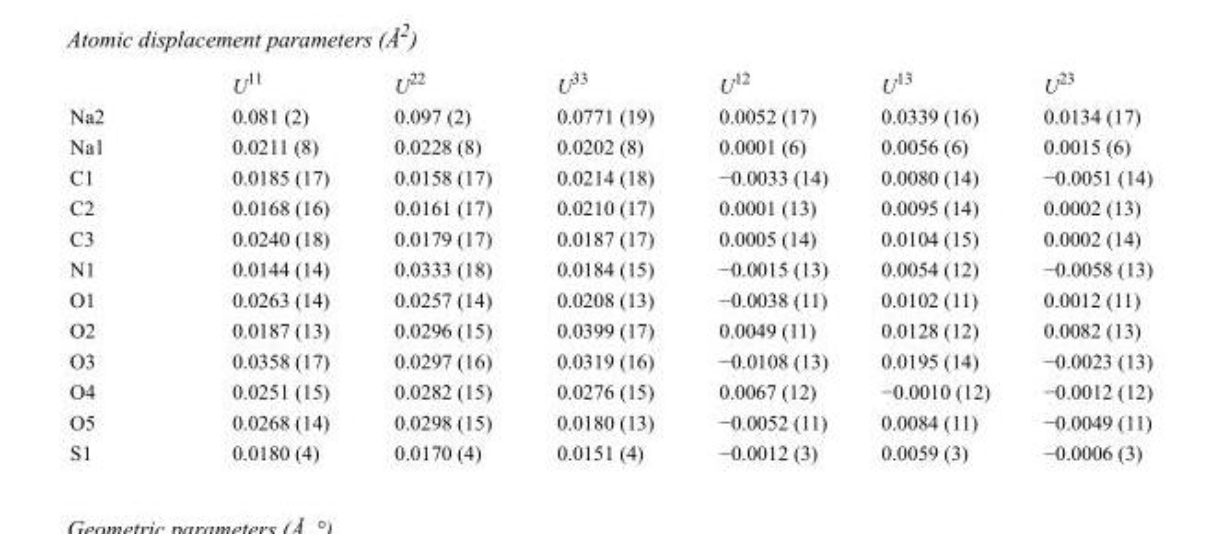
<table><thead><tr><td></td><td>U<sup>11</sup></td><td>U<sup>22</sup></td><td>U<sup>33</sup></td><td>U<sup>12</sup></td><td>U<sup>13</sup></td><td>U<sup>23</sup></td></tr></thead><tbody><tr><td>Na2</td><td>0.081 (2)</td><td>0.097 (2)</td><td>0.0771 (19)</td><td>0.0052 (17)</td><td>0.0339 (16)</td><td>0.0134 (17)</td></tr><tr><td>Na1</td><td>0.0211 (8)</td><td>0.0228 (8)</td><td>0.0202 (8)</td><td>0.0001 (6)</td><td>0.0056 (6)</td><td>0.0015 (6)</td></tr><tr><td>C1</td><td>0.0185 (17)</td><td>0.0158 (17)</td><td>0.0214 (18)</td><td>−0.0033 (14)</td><td>0.0080 (14)</td><td>−0.0051 (14)</td></tr><tr><td>C2</td><td>0.0168 (16)</td><td>0.0161 (17)</td><td>0.0210 (17)</td><td>0.0001 (13)</td><td>0.0095 (14)</td><td>0.0002 (13)</td></tr><tr><td>C3</td><td>0.0240 (18)</td><td>0.0179 (17)</td><td>0.0187 (17)</td><td>0.0005 (14)</td><td>0.0104 (15)</td><td>0.0002 (14)</td></tr><tr><td>N1</td><td>0.0144 (14)</td><td>0.0333 (18)</td><td>0.0184 (15)</td><td>−0.0015 (13)</td><td>0.0054 (12)</td><td>−0.0058 (13)</td></tr><tr><td>O1</td><td>0.0263 (14)</td><td>0.0257 (14)</td><td>0.0208 (13)</td><td>−0.0038 (11)</td><td>0.0102 (11)</td><td>0.0012 (11)</td></tr><tr><td>O2</td><td>0.0187 (13)</td><td>0.0296 (15)</td><td>0.0399 (17)</td><td>0.0049 (11)</td><td>0.0128 (12)</td><td>0.0082 (13)</td></tr><tr><td>O3</td><td>0.0358 (17)</td><td>0.0297 (16)</td><td>0.0319 (16)</td><td>−0.0108 (13)</td><td>0.0195 (14)</td><td>−0.0023 (13)</td></tr><tr><td>O4</td><td>0.0251 (15)</td><td>0.0282 (15)</td><td>0.0276 (15)</td><td>0.0067 (12)</td><td>−0.0010 (12)</td><td>−0.0012 (12)</td></tr><tr><td>O5</td><td>0.0268 (14)</td><td>0.0298 (15)</td><td>0.0180 (13)</td><td>−0.0052 (11)</td><td>0.0084 (11)</td><td>−0.0049 (11)</td></tr><tr><td>S1</td><td>0.0180 (4)</td><td>0.0170 (4)</td><td>0.0151 (4)</td><td>−0.0012 (3)</td><td>0.0059 (3)</td><td>−0.0006 (3)</td></tr></tbody></table>